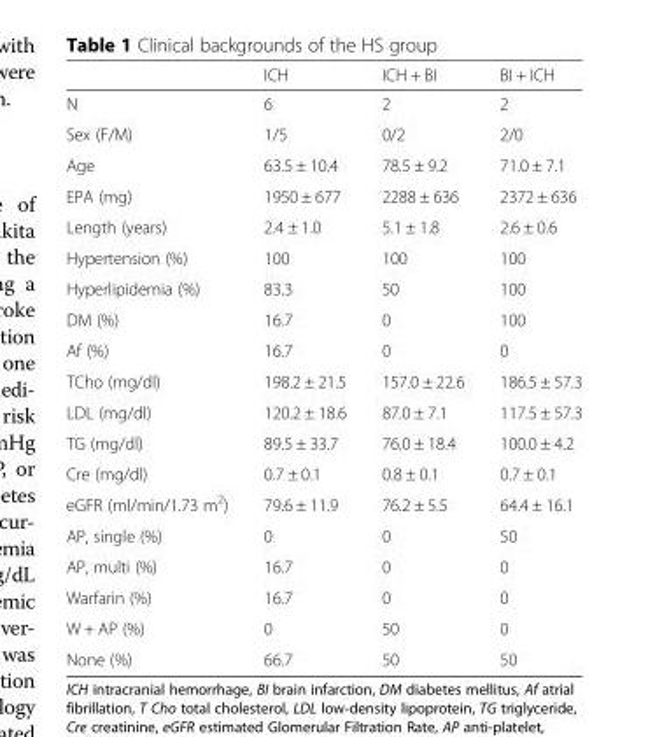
<table><thead><tr><td></td><td>ICH</td><td>ICH + BI</td><td>BI + ICH</td></tr></thead><tbody><tr><td>N</td><td>6</td><td>2</td><td>2</td></tr><tr><td>Sex (F/M)</td><td>1/5</td><td>0/2</td><td>2/0</td></tr><tr><td>Age</td><td>63.5 ± 10.4</td><td>78.5 ± 9.2</td><td>71.0 ± 7.1</td></tr><tr><td>EPA (mg)</td><td>1950 ± 677</td><td>2288 ± 636</td><td>2372 ± 636</td></tr><tr><td>Length (years)</td><td>2.4 ± 1.0</td><td>5.1 ± 1.8</td><td>2.6 ± 0.6</td></tr><tr><td>Hypertension (%)</td><td>100</td><td>100</td><td>100</td></tr><tr><td>Hyperlipidemia (%)</td><td>83.3</td><td>50</td><td>100</td></tr><tr><td>DM (%)</td><td>16.7</td><td>0</td><td>100</td></tr><tr><td>Af (%)</td><td>16.7</td><td>0</td><td>0</td></tr><tr><td>TCho (mg/dl)</td><td>198.2 ± 21.5</td><td>157.0 ± 22.6</td><td>186.5 ± 57.3</td></tr><tr><td>LDL (mg/dl)</td><td>120.2 ± 18.6</td><td>87.0 ± 7.1</td><td>117.5 ± 57.3</td></tr><tr><td>TG (mg/dl)</td><td>89.5 ± 33.7</td><td>76.0 ± 18.4</td><td>100.0 ± 4.2</td></tr><tr><td>Cre (mg/dl)</td><td>0.7 ± 0.1</td><td>0.8 ± 0.1</td><td>0.7 ± 0.1</td></tr><tr><td>eGFR (ml/min/1.73 m<sup>2</sup>)</td><td>79.6 ± 11.9</td><td>76.2 ± 5.5</td><td>64.4 ± 16.1</td></tr><tr><td>AP, single (%)</td><td>0</td><td>0</td><td>50</td></tr><tr><td>AP, multi (%)</td><td>16.7</td><td>0</td><td>0</td></tr><tr><td>Warfarin (%)</td><td>16.7</td><td>0</td><td>0</td></tr><tr><td>W + AP (%)</td><td>0</td><td>50</td><td>0</td></tr><tr><td>None (%)</td><td>66.7</td><td>50</td><td>50</td></tr></tbody></table>